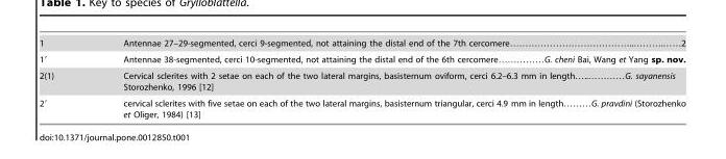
<table><tbody><tr><td>1</td><td>Antennae 27–29-segmented, cerci 9-segmented, not attaining the distal end of the 7th cercomere…………………………………..……….……2</td></tr><tr><td>1′</td><td>Antennae 38-segmented, cerci 10-segmented, not attaining the distal end of the 6th cercomere……………G. cheni Bai, Wang et Yang sp. nov.</td></tr><tr><td>2(1)</td><td>Cervical sclerites with 2 setae on each of the two lateral margins, basisternum oviform, cerci 6.2–6.3 mm in length…..…………G. sayanensis Storozhenko, 1996 [12]</td></tr><tr><td>2′</td><td>cervical sclerites with five setae on each of the two lateral margins, basisternum triangular, cerci 4.9 mm in length………G. pravdini (Storozhenko et Oliger, 1984) [13]</td></tr></tbody></table>